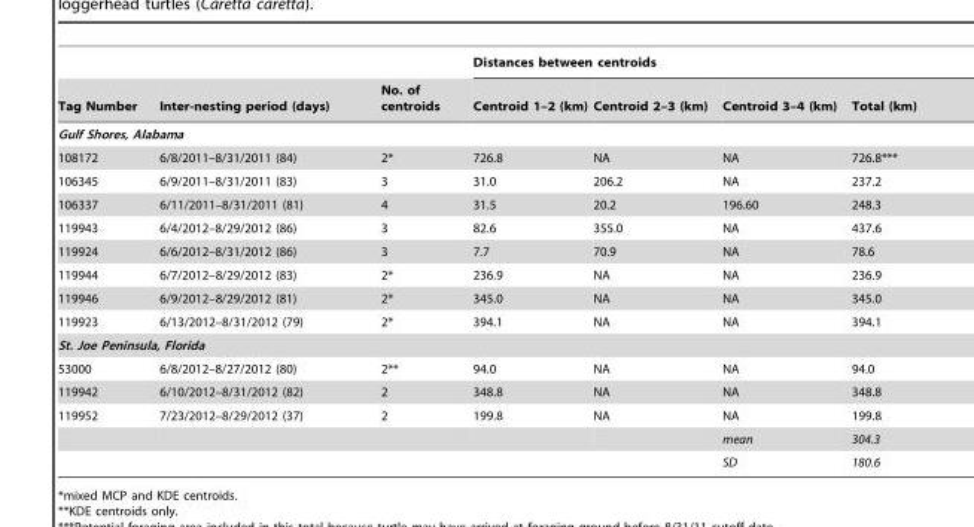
<table><thead><tr><td rowspan="2">Tag Number</td><td rowspan="2">Inter-nesting period (days)</td><td rowspan="2">No. of centroids</td><td colspan="4">Distances between centroids</td></tr><tr><td>Centroid 1–2 (km)</td><td>Centroid 2–3 (km)</td><td>Centroid 3–4 (km)</td><td>Total (km)</td></tr></thead><tbody><tr><td colspan="7">Gulf Shores, Alabama</td></tr><tr><td>108172</td><td>6/8/2011–8/31/2011 (84)</td><td>2*</td><td>726.8</td><td>NA</td><td>NA</td><td>726.8***</td></tr><tr><td>106345</td><td>6/9/2011–8/31/2011 (83)</td><td>3</td><td>31.0</td><td>206.2</td><td>NA</td><td>237.2</td></tr><tr><td>106337</td><td>6/11/2011–8/31/2011 (81)</td><td>4</td><td>31.5</td><td>20.2</td><td>196.60</td><td>248.3</td></tr><tr><td>119943</td><td>6/4/2012–8/29/2012 (86)</td><td>3</td><td>82.6</td><td>355.0</td><td>NA</td><td>437.6</td></tr><tr><td>119924</td><td>6/6/2012–8/31/2012 (86)</td><td>3</td><td>7.7</td><td>70.9</td><td>NA</td><td>78.6</td></tr><tr><td>119944</td><td>6/7/2012–8/29/2012 (83)</td><td>2*</td><td>236.9</td><td>NA</td><td>NA</td><td>236.9</td></tr><tr><td>119946</td><td>6/9/2012–8/29/2012 (81)</td><td>2*</td><td>345.0</td><td>NA</td><td>NA</td><td>345.0</td></tr><tr><td>119923</td><td>6/13/2012–8/31/2012 (79)</td><td>2*</td><td>394.1</td><td>NA</td><td>NA</td><td>394.1</td></tr><tr><td colspan="7">St. Joe Peninsula, Florida</td></tr><tr><td>53000</td><td>6/8/2012–8/27/2012 (80)</td><td>2**</td><td>94.0</td><td>NA</td><td>NA</td><td>94.0</td></tr><tr><td>119942</td><td>6/10/2012–8/31/2012 (82)</td><td>2</td><td>348.8</td><td>NA</td><td>NA</td><td>348.8</td></tr><tr><td rowspan="3">119952</td><td>7/23/2012–8/29/2012 (37)</td><td>2</td><td>199.8</td><td>NA</td><td>NA</td><td>199.8</td></tr><tr><td></td><td></td><td></td><td></td><td>mean</td><td>304.3</td></tr><tr><td></td><td></td><td></td><td></td><td>SD</td><td>180.6</td></tr></tbody></table>